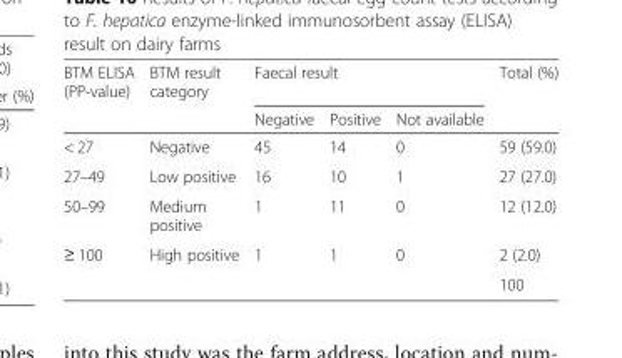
<table><thead><tr><td rowspan="2">BTM ELISA (PP-value)</td><td rowspan="2">BTM result category</td><td colspan="3">Faecal result</td><td rowspan="2">Total (%)</td></tr><tr><td>Negative</td><td>Positive</td><td>Not available</td></tr></thead><tbody><tr><td>&lt; 27</td><td>Negative</td><td>45</td><td>14</td><td>0</td><td>59 (59.0)</td></tr><tr><td>27–49</td><td>Low positive</td><td>16</td><td>10</td><td>1</td><td>27 (27.0)</td></tr><tr><td>50–99</td><td>Medium positive</td><td>1</td><td>11</td><td>0</td><td>12 (12.0)</td></tr><tr><td rowspan="2">≥ 100</td><td>High positive</td><td>1</td><td>1</td><td>0</td><td>2 (2.0)</td></tr><tr><td></td><td></td><td></td><td></td><td>100</td></tr></tbody></table>